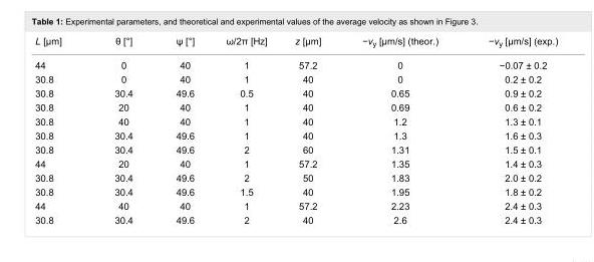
<table><tbody><tr><td>L [μm]</td><td>θ [°]</td><td>ψ [°]</td><td>ω/2π [Hz]</td><td>z [μm]</td><td>−v<sub>y</sub> [μm/s] (theor.)</td><td>−v<sub>y</sub> [μm/s] (exp.)</td></tr><tr><td>44</td><td>0</td><td>40</td><td>1</td><td>57.2</td><td>0</td><td>−0.07 ± 0.2</td></tr><tr><td>30.8</td><td>0</td><td>40</td><td>1</td><td>40</td><td>0</td><td>0.2 ± 0.2</td></tr><tr><td>30.8</td><td>30.4</td><td>49.6</td><td>0.5</td><td>40</td><td>0.65</td><td>0.9 ± 0.2</td></tr><tr><td>30.8</td><td>20</td><td>40</td><td>1</td><td>40</td><td>0.69</td><td>0.6 ± 0.2</td></tr><tr><td>30.8</td><td>40</td><td>40</td><td>1</td><td>40</td><td>1.2</td><td>1.3 ± 0.1</td></tr><tr><td>30.8</td><td>30.4</td><td>49.6</td><td>1</td><td>40</td><td>1.3</td><td>1.6 ± 0.3</td></tr><tr><td>30.8</td><td>30.4</td><td>49.6</td><td>2</td><td>60</td><td>1.31</td><td>1.5 ± 0.1</td></tr><tr><td>44</td><td>20</td><td>40</td><td>1</td><td>57.2</td><td>1.35</td><td>1.4 ± 0.3</td></tr><tr><td>30.8</td><td>30.4</td><td>49.6</td><td>2</td><td>50</td><td>1.83</td><td>2.0 ± 0.2</td></tr><tr><td>30.8</td><td>30.4</td><td>49.6</td><td>1.5</td><td>40</td><td>1.95</td><td>1.8 ± 0.2</td></tr><tr><td>44</td><td>40</td><td>40</td><td>1</td><td>57.2</td><td>2.23</td><td>2.4 ± 0.3</td></tr><tr><td>30.8</td><td>30.4</td><td>49.6</td><td>2</td><td>40</td><td>2.6</td><td>2.4 ± 0.3</td></tr></tbody></table>